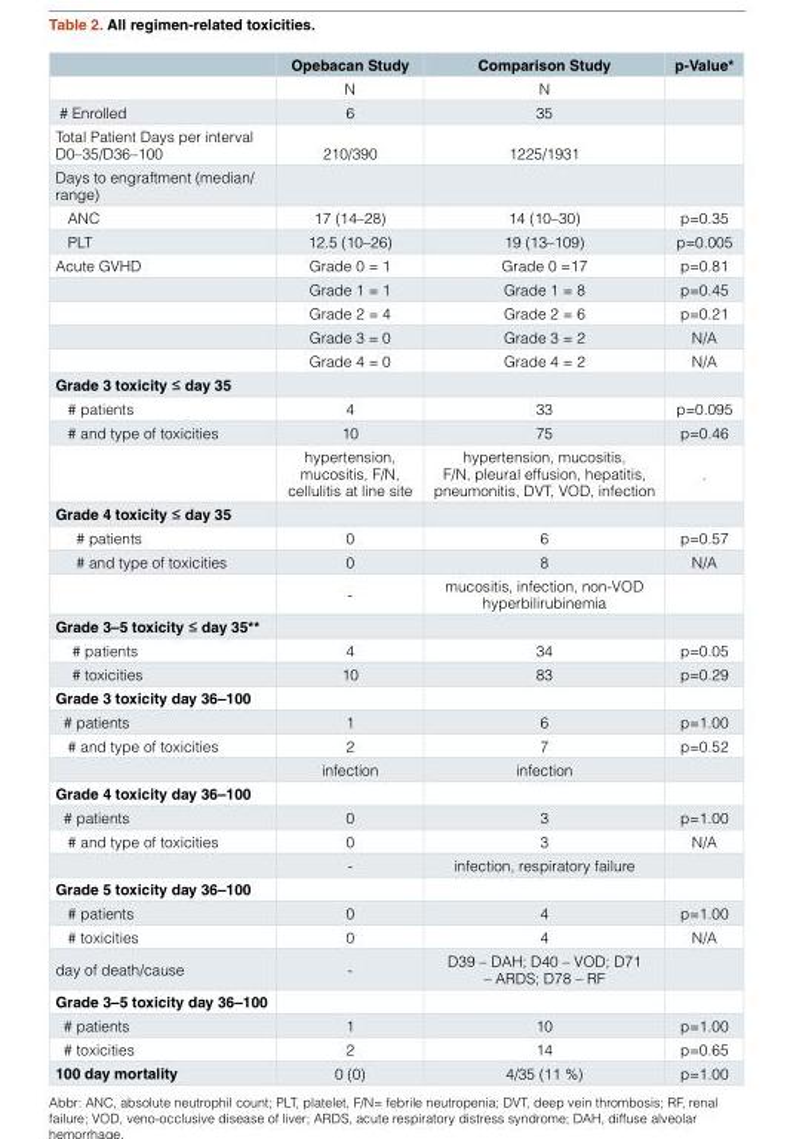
<table><thead><tr><td></td><td>Opebacan Study</td><td>Comparison Study</td><td>p-Value*</td></tr></thead><tbody><tr><td></td><td>N</td><td>N</td><td></td></tr><tr><td># Enrolled</td><td>6</td><td>35</td><td></td></tr><tr><td>Total Patient Days per interval D0–35/D36–100</td><td>210/390</td><td>1225/1931</td><td></td></tr><tr><td colspan="4">Days to engraftment (median/ range)</td></tr><tr><td>ANC</td><td>17 (14–28)</td><td>14 (10–30)</td><td>p=0.35</td></tr><tr><td>PLT</td><td>12.5 (10–26)</td><td>19 (13–109)</td><td>p=0.005</td></tr><tr><td rowspan="5">Acute GVHD</td><td>Grade 0 = 1</td><td>Grade 0 =17</td><td>p=0.81</td></tr><tr><td>Grade 1 = 1</td><td>Grade 1 = 8</td><td>p=0.45</td></tr><tr><td>Grade 2 = 4</td><td>Grade 2 = 6</td><td>p=0.21</td></tr><tr><td>Grade 3 = 0</td><td>Grade 3 = 2</td><td>N/A</td></tr><tr><td>Grade 4 = 0</td><td>Grade 4 = 2</td><td>N/A</td></tr><tr><td colspan="4">Grade 3 toxicity ≤ day 35</td></tr><tr><td># patients</td><td>4</td><td>33</td><td>p=0.095</td></tr><tr><td rowspan="2"># and type of toxicities</td><td>10</td><td>75</td><td>p=0.46</td></tr><tr><td>hypertension, mucositis, F/N, cellulitis at line site</td><td>hypertension, mucositis, F/N, pleural effusion, hepatitis, pneumonitis, DVT, VOD, infection</td><td>.</td></tr><tr><td colspan="4">Grade 4 toxicity ≤ day 35</td></tr><tr><td># patients</td><td>0</td><td>6</td><td>p=0.57</td></tr><tr><td rowspan="2"># and type of toxicities</td><td>0</td><td>8</td><td>N/A</td></tr><tr><td>-</td><td>mucositis, infection, non-VOD hyperbilirubinemia</td><td></td></tr><tr><td colspan="4">Grade 3–5 toxicity ≤ day 35**</td></tr><tr><td># patients</td><td>4</td><td>34</td><td>p=0.05</td></tr><tr><td># toxicities</td><td>10</td><td>83</td><td>p=0.29</td></tr><tr><td colspan="4">Grade 3 toxicity day 36–100</td></tr><tr><td># patients</td><td>1</td><td>6</td><td>p=1.00</td></tr><tr><td rowspan="2"># and type of toxicities</td><td>2</td><td>7</td><td>p=0.52</td></tr><tr><td>infection</td><td>infection</td><td></td></tr><tr><td colspan="4">Grade 4 toxicity day 36–100</td></tr><tr><td># patients</td><td>0</td><td>3</td><td>p=1.00</td></tr><tr><td rowspan="2"># and type of toxicities</td><td>0</td><td>3</td><td>N/A</td></tr><tr><td>-</td><td>infection, respiratory failure</td><td></td></tr><tr><td colspan="4">Grade 5 toxicity day 36–100</td></tr><tr><td># patients</td><td>0</td><td>4</td><td>p=1.00</td></tr><tr><td># toxicities</td><td>0</td><td>4</td><td>N/A</td></tr><tr><td>day of death/cause</td><td>-</td><td>D39 – DAH; D40 – VOD; D71 – ARDS; D78 – RF</td><td></td></tr><tr><td colspan="4">Grade 3–5 toxicity day 36–100</td></tr><tr><td># patients</td><td>1</td><td>10</td><td>p=1.00</td></tr><tr><td># toxicities</td><td>2</td><td>14</td><td>p=0.65</td></tr><tr><td>100 day mortality</td><td>0 (0)</td><td>4/35 (11 %)</td><td>p=1.00</td></tr></tbody></table>